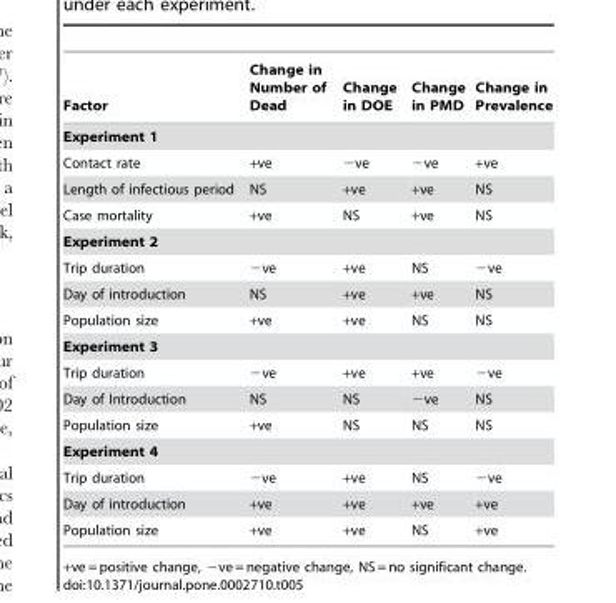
<table><thead><tr><td>Factor</td><td>Change in Number of Dead</td><td>Change in DOE</td><td>Change in PMD</td><td>Change in Prevalence</td></tr></thead><tbody><tr><td colspan="5">Experiment 1</td></tr><tr><td>Contact rate</td><td>+ve</td><td>−ve</td><td>−ve</td><td>+ve</td></tr><tr><td>Length of infectious period</td><td>NS</td><td>+ve</td><td>+ve</td><td>NS</td></tr><tr><td>Case mortality</td><td>+ve</td><td>NS</td><td>+ve</td><td>NS</td></tr><tr><td colspan="5">Experiment 2</td></tr><tr><td>Trip duration</td><td>−ve</td><td>+ve</td><td>NS</td><td>−ve</td></tr><tr><td>Day of introduction</td><td>NS</td><td>+ve</td><td>+ve</td><td>NS</td></tr><tr><td>Population size</td><td>+ve</td><td>+ve</td><td>NS</td><td>NS</td></tr><tr><td colspan="5">Experiment 3</td></tr><tr><td>Trip duration</td><td>−ve</td><td>+ve</td><td>+ve</td><td>−ve</td></tr><tr><td>Day of Introduction</td><td>NS</td><td>NS</td><td>−ve</td><td>NS</td></tr><tr><td>Population size</td><td>+ve</td><td>NS</td><td>NS</td><td>NS</td></tr><tr><td colspan="5">Experiment 4</td></tr><tr><td>Trip duration</td><td>−ve</td><td>+ve</td><td>NS</td><td>−ve</td></tr><tr><td>Day of introduction</td><td>+ve</td><td>+ve</td><td>+ve</td><td>+ve</td></tr><tr><td>Population size</td><td>+ve</td><td>+ve</td><td>NS</td><td>+ve</td></tr></tbody></table>